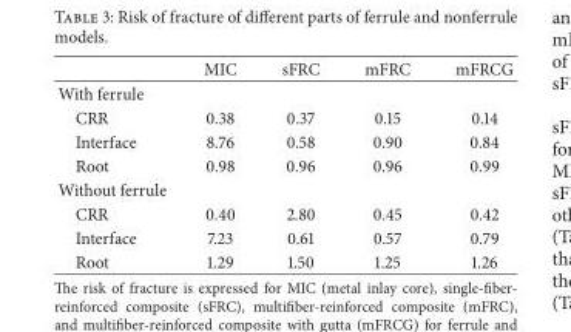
<table><thead><tr><td></td><td>MIC</td><td>sFRC</td><td>mFRC</td><td>mFRCG</td></tr></thead><tbody><tr><td colspan="5">With ferrule</td></tr><tr><td>CRR</td><td>0.38</td><td>0.37</td><td>0.15</td><td>0.14</td></tr><tr><td>Interface</td><td>8.76</td><td>0.58</td><td>0.90</td><td>0.84</td></tr><tr><td>Root</td><td>0.98</td><td>0.96</td><td>0.96</td><td>0.99</td></tr><tr><td colspan="5">Without ferrule</td></tr><tr><td>CRR</td><td>0.40</td><td>2.80</td><td>0.45</td><td>0.42</td></tr><tr><td>Interface</td><td>7.23</td><td>0.61</td><td>0.57</td><td>0.79</td></tr><tr><td>Root</td><td>1.29</td><td>1.50</td><td>1.25</td><td>1.26</td></tr></tbody></table>